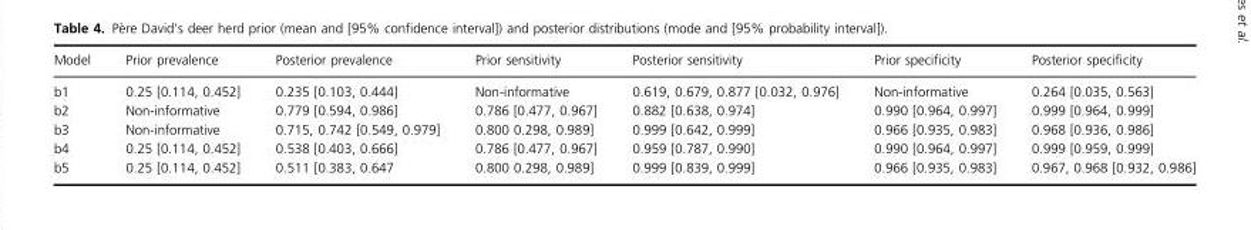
<table><thead><tr><td>Model</td><td>Prior prevalence</td><td>Posterior prevalence</td><td>Prior sensitivity</td><td>Posterior sensitivity</td><td>Prior specificity</td><td>Posterior specificity</td></tr></thead><tbody><tr><td>b1</td><td>0.25 [0.114, 0.452]</td><td>0.235 [0.103, 0.444]</td><td>Non-informative</td><td>0.619, 0.679, 0.877 [0.032, 0.976]</td><td>Non-informative</td><td>0.264 [0.035, 0.563]</td></tr><tr><td>b2</td><td>Non-informative</td><td>0.779 [0.594, 0.986]</td><td>0.786 [0.477, 0.967]</td><td>0.882 [0.638, 0.974]</td><td>0.990 [0.964, 0.997]</td><td>0.999 [0.964, 0.999]</td></tr><tr><td>b3</td><td>Non-informative</td><td>0.715, 0.742 [0.549, 0.979]</td><td>0.800 0.298, 0.989]</td><td>0.999 [0.642, 0.999]</td><td>0.966 [0.935, 0.983]</td><td>0.968 [0.936, 0.986]</td></tr><tr><td>b4</td><td>0.25 [0.114, 0.452]</td><td>0.538 [0.403, 0.666]</td><td>0.786 [0.477, 0.967]</td><td>0.959 [0.787, 0.990]</td><td>0.990 [0.964, 0.997]</td><td>0.999 [0.959, 0.999]</td></tr><tr><td>b5</td><td>0.25 [0.114, 0.452]</td><td>0.511 [0.383, 0.647</td><td>0.800 0.298, 0.989]</td><td>0.999 [0.839, 0.999]</td><td>0.966 [0.935, 0.983]</td><td>0.967, 0.968 [0.932, 0.986]</td></tr></tbody></table>